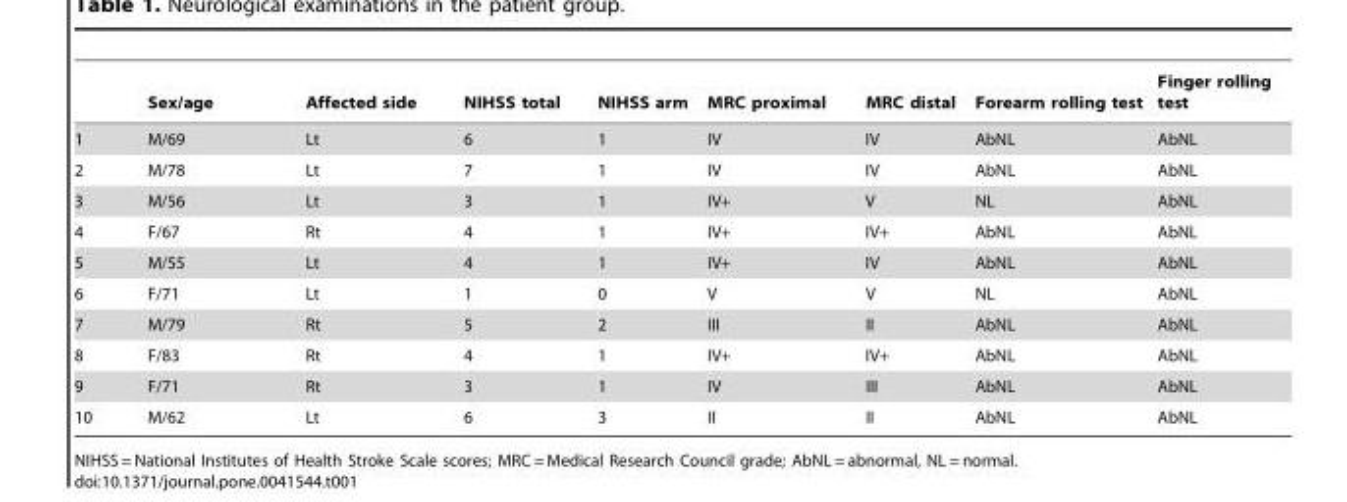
<table><thead><tr><td></td><td>Sex/age</td><td>Affected side</td><td>NIHSS total</td><td>NIHSS arm</td><td>MRC proximal</td><td>MRC distal</td><td>Forearm rolling test</td><td>Finger rolling test</td></tr></thead><tbody><tr><td>1</td><td>M/69</td><td>Lt</td><td>6</td><td>1</td><td>IV</td><td>IV</td><td>AbNL</td><td>AbNL</td></tr><tr><td>2</td><td>M/78</td><td>Lt</td><td>7</td><td>1</td><td>IV</td><td>IV</td><td>AbNL</td><td>AbNL</td></tr><tr><td>3</td><td>M/56</td><td>Lt</td><td>3</td><td>1</td><td>IV+</td><td>V</td><td>NL</td><td>AbNL</td></tr><tr><td>4</td><td>F/67</td><td>Rt</td><td>4</td><td>1</td><td>IV+</td><td>IV+</td><td>AbNL</td><td>AbNL</td></tr><tr><td>5</td><td>M/55</td><td>Lt</td><td>4</td><td>1</td><td>IV+</td><td>IV</td><td>AbNL</td><td>AbNL</td></tr><tr><td>6</td><td>F/71</td><td>Lt</td><td>1</td><td>0</td><td>V</td><td>V</td><td>NL</td><td>AbNL</td></tr><tr><td>7</td><td>M/79</td><td>Rt</td><td>5</td><td>2</td><td>III</td><td>II</td><td>AbNL</td><td>AbNL</td></tr><tr><td>8</td><td>F/83</td><td>Rt</td><td>4</td><td>1</td><td>IV+</td><td>IV+</td><td>AbNL</td><td>AbNL</td></tr><tr><td>9</td><td>F/71</td><td>Rt</td><td>3</td><td>1</td><td>IV</td><td>III</td><td>AbNL</td><td>AbNL</td></tr><tr><td>10</td><td>M/62</td><td>Lt</td><td>6</td><td>3</td><td>II</td><td>II</td><td>AbNL</td><td>AbNL</td></tr></tbody></table>